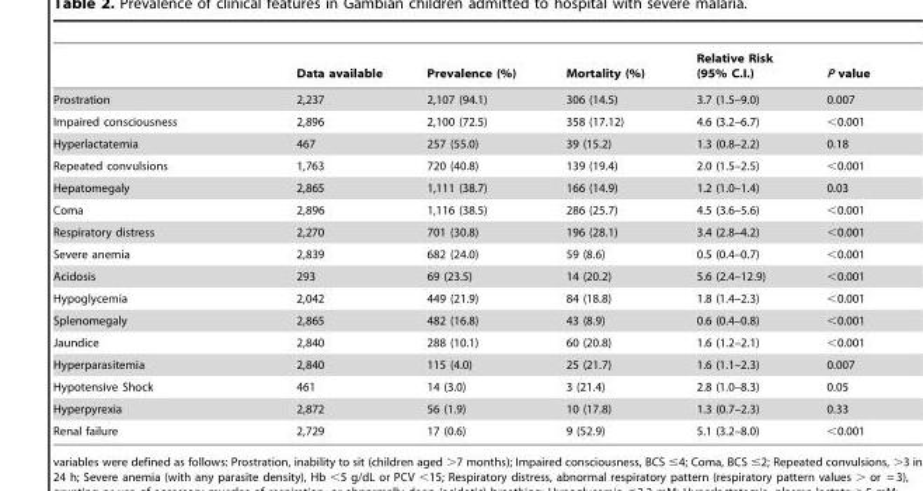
<table><thead><tr><td></td><td>Data available</td><td>Prevalence (%)</td><td>Mortality (%)</td><td>Relative Risk (95% C.I.)</td><td>P value</td></tr></thead><tbody><tr><td>Prostration</td><td>2,237</td><td>2,107 (94.1)</td><td>306 (14.5)</td><td>3.7 (1.5–9.0)</td><td>0.007</td></tr><tr><td>Impaired consciousness</td><td>2,896</td><td>2,100 (72.5)</td><td>358 (17.12)</td><td>4.6 (3.2–6.7)</td><td>&lt;0.001</td></tr><tr><td>Hyperlactatemia</td><td>467</td><td>257 (55.0)</td><td>39 (15.2)</td><td>1.3 (0.8–2.2)</td><td>0.18</td></tr><tr><td>Repeated convulsions</td><td>1,763</td><td>720 (40.8)</td><td>139 (19.4)</td><td>2.0 (1.5–2.5)</td><td>&lt;0.001</td></tr><tr><td>Hepatomegaly</td><td>2,865</td><td>1,111 (38.7)</td><td>166 (14.9)</td><td>1.2 (1.0–1.4)</td><td>0.03</td></tr><tr><td>Coma</td><td>2,896</td><td>1,116 (38.5)</td><td>286 (25.7)</td><td>4.5 (3.6–5.6)</td><td>&lt;0.001</td></tr><tr><td>Respiratory distress</td><td>2,270</td><td>701 (30.8)</td><td>196 (28.1)</td><td>3.4 (2.8–4.2)</td><td>&lt;0.001</td></tr><tr><td>Severe anemia</td><td>2,839</td><td>682 (24.0)</td><td>59 (8.6)</td><td>0.5 (0.4–0.7)</td><td>&lt;0.001</td></tr><tr><td>Acidosis</td><td>293</td><td>69 (23.5)</td><td>14 (20.2)</td><td>5.6 (2.4–12.9)</td><td>&lt;0.001</td></tr><tr><td>Hypoglycemia</td><td>2,042</td><td>449 (21.9)</td><td>84 (18.8)</td><td>1.8 (1.4–2.3)</td><td>&lt;0.001</td></tr><tr><td>Splenomegaly</td><td>2,865</td><td>482 (16.8)</td><td>43 (8.9)</td><td>0.6 (0.4–0.8)</td><td>&lt;0.001</td></tr><tr><td>Jaundice</td><td>2,840</td><td>288 (10.1)</td><td>60 (20.8)</td><td>1.6 (1.2–2.1)</td><td>&lt;0.001</td></tr><tr><td>Hyperparasitemia</td><td>2,840</td><td>115 (4.0)</td><td>25 (21.7)</td><td>1.6 (1.1–2.3)</td><td>0.007</td></tr><tr><td>Hypotensive Shock</td><td>461</td><td>14 (3.0)</td><td>3 (21.4)</td><td>2.8 (1.0–8.3)</td><td>0.05</td></tr><tr><td>Hyperpyrexia</td><td>2,872</td><td>56 (1.9)</td><td>10 (17.8)</td><td>1.3 (0.7–2.3)</td><td>0.33</td></tr><tr><td>Renal failure</td><td>2,729</td><td>17 (0.6)</td><td>9 (52.9)</td><td>5.1 (3.2–8.0)</td><td>&lt;0.001</td></tr></tbody></table>